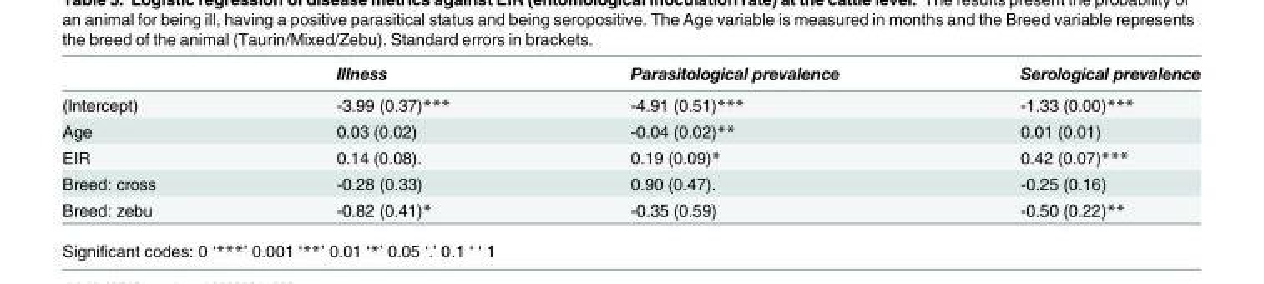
<table><thead><tr><td></td><td>Illness</td><td>Parasitological prevalence</td><td>Serological prevalence</td></tr></thead><tbody><tr><td>(Intercept)</td><td>-3.99 (0.37)***</td><td>-4.91 (0.51)***</td><td>-1.33 (0.00)***</td></tr><tr><td>Age</td><td>0.03 (0.02)</td><td>-0.04 (0.02)**</td><td>0.01 (0.01)</td></tr><tr><td>EIR</td><td>0.14 (0.08).</td><td>0.19 (0.09)*</td><td>0.42 (0.07)***</td></tr><tr><td>Breed: cross</td><td>-0.28 (0.33)</td><td>0.90 (0.47).</td><td>-0.25 (0.16)</td></tr><tr><td>Breed: zebu</td><td>-0.82 (0.41)*</td><td>-0.35 (0.59)</td><td>-0.50 (0.22)**</td></tr></tbody></table>